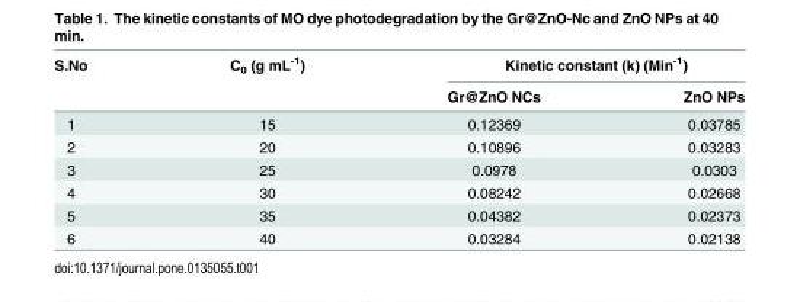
<table><thead><tr><td rowspan="2">S.No</td><td rowspan="2">C<sub>0</sub> (g mL<sup>-1</sup>)</td><td colspan="2">Kinetic constant (k) (Min<sup>-1</sup>)</td></tr><tr><td>Gr@ZnO NCs</td><td>ZnO NPs</td></tr></thead><tbody><tr><td>1</td><td>15</td><td>0.12369</td><td>0.03785</td></tr><tr><td>2</td><td>20</td><td>0.10896</td><td>0.03283</td></tr><tr><td>3</td><td>25</td><td>0.0978</td><td>0.0303</td></tr><tr><td>4</td><td>30</td><td>0.08242</td><td>0.02668</td></tr><tr><td>5</td><td>35</td><td>0.04382</td><td>0.02373</td></tr><tr><td>6</td><td>40</td><td>0.03284</td><td>0.02138</td></tr></tbody></table>